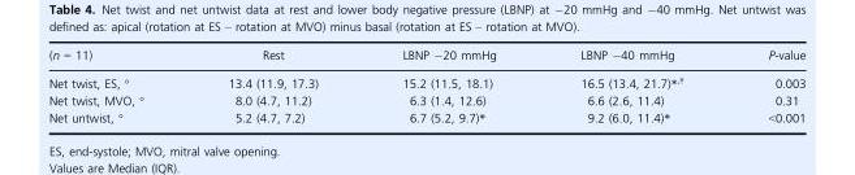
<table><thead><tr><td>(n = 11)</td><td>Rest</td><td>LBNP −20 mmHg</td><td>LBNP −40 mmHg</td><td>P-value</td></tr></thead><tbody><tr><td>Net twist, ES, °</td><td>13.4 (11.9, 17.3)</td><td>15.2 (11.5, 18.1)</td><td>16.5 (13.4, 21.7)*<sup>,</sup>†</td><td>0.003</td></tr><tr><td>Net twist, MVO, °</td><td>8.0 (4.7, 11.2)</td><td>6.3 (1.4, 12.6)</td><td>6.6 (2.6, 11.4)</td><td>0.31</td></tr><tr><td>Net untwist, °</td><td>5.2 (4.7, 7.2)</td><td>6.7 (5.2, 9.7)*</td><td>9.2 (6.0, 11.4)*</td><td>&lt;0.001</td></tr></tbody></table>